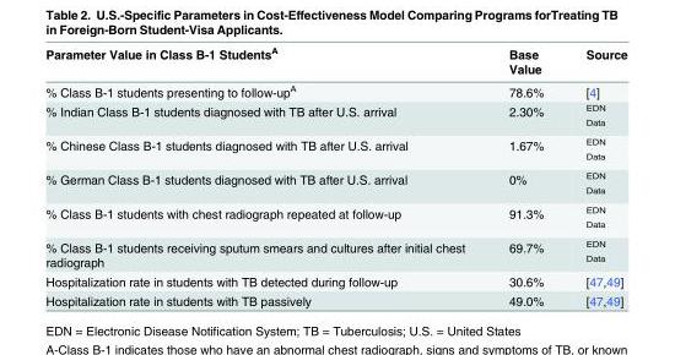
<table><thead><tr><td>Parameter Value in Class B-1 Students<sup>A</sup></td><td>Base Value</td><td>Source</td></tr></thead><tbody><tr><td>% Class B-1 students presenting to follow-up<sup>A</sup></td><td>78.6%</td><td>[4]</td></tr><tr><td>% Indian Class B-1 students diagnosed with TB after U.S. arrival</td><td>2.30%</td><td><sup>EDN Data</sup></td></tr><tr><td>% Chinese Class B-1 students diagnosed with TB after U.S. arrival</td><td>1.67%</td><td><sup>EDN Data</sup></td></tr><tr><td>% German Class B-1 students diagnosed with TB after U.S. arrival</td><td>0%</td><td><sup>EDN Data</sup></td></tr><tr><td>% Class B-1 students with chest radiograph repeated at follow-up</td><td>91.3%</td><td><sup>EDN Data</sup></td></tr><tr><td>% Class B-1 students receiving sputum smears and cultures after initial chest radiograph</td><td>69.7%</td><td><sup>EDN Data</sup></td></tr><tr><td>Hospitalization rate in students with TB detected during follow-up</td><td>30.6%</td><td>[47,49]</td></tr><tr><td>Hospitalization rate in students with TB passively</td><td>49.0%</td><td>[47,49]</td></tr></tbody></table>